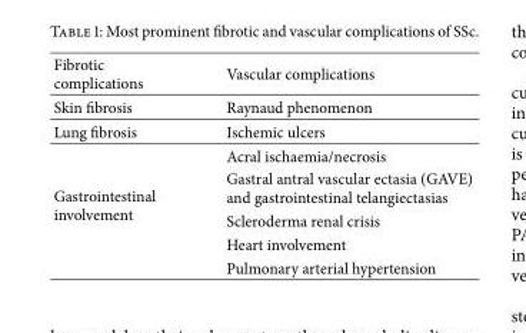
<table><thead><tr><td>Fibrotic complications</td><td>Vascular complications</td></tr></thead><tbody><tr><td>Skin fibrosis</td><td>Raynaud phenomenon</td></tr><tr><td>Lung fibrosis</td><td>Ischemic ulcers</td></tr><tr><td rowspan="5">Gastrointestinal involvement</td><td>Acral ischaemia/necrosis</td></tr><tr><td>Gastral antral vascular ectasia (GAVE) and gastrointestinal telangiectasias</td></tr><tr><td>Scleroderma renal crisis</td></tr><tr><td>Heart involvement</td></tr><tr><td>Pulmonary arterial hypertension</td></tr></tbody></table>